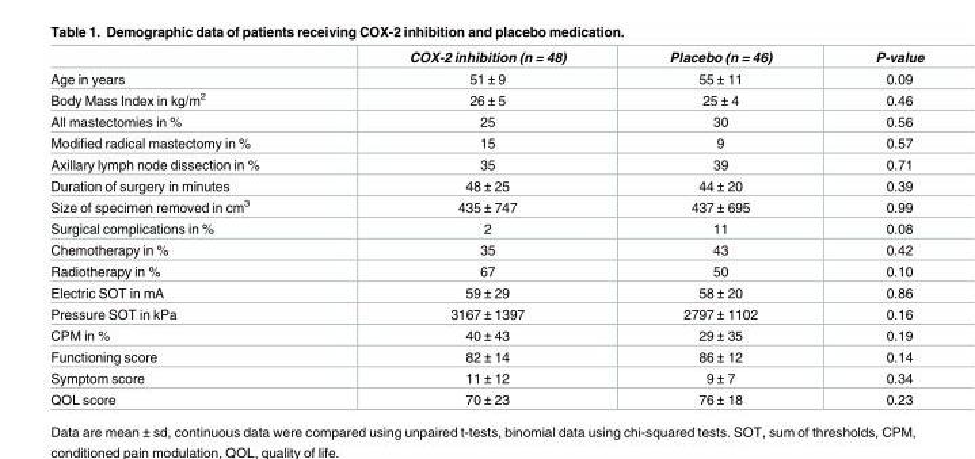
<table><thead><tr><td></td><td>COX-2 inhibition (n = 48)</td><td>Placebo (n = 46)</td><td>P-value</td></tr></thead><tbody><tr><td>Age in years</td><td>51 ± 9</td><td>55 ± 11</td><td>0.09</td></tr><tr><td>Body Mass Index in kg/m<sup>2</sup></td><td>26 ± 5</td><td>25 ± 4</td><td>0.46</td></tr><tr><td>All mastectomies in %</td><td>25</td><td>30</td><td>0.56</td></tr><tr><td>Modified radical mastectomy in %</td><td>15</td><td>9</td><td>0.57</td></tr><tr><td>Axillary lymph node dissection in %</td><td>35</td><td>39</td><td>0.71</td></tr><tr><td>Duration of surgery in minutes</td><td>48 ± 25</td><td>44 ± 20</td><td>0.39</td></tr><tr><td>Size of specimen removed in cm<sup>3</sup></td><td>435 ± 747</td><td>437 ± 695</td><td>0.99</td></tr><tr><td>Surgical complications in %</td><td>2</td><td>11</td><td>0.08</td></tr><tr><td>Chemotherapy in %</td><td>35</td><td>43</td><td>0.42</td></tr><tr><td>Radiotherapy in %</td><td>67</td><td>50</td><td>0.10</td></tr><tr><td>Electric SOT in mA</td><td>59 ± 29</td><td>58 ± 20</td><td>0.86</td></tr><tr><td>Pressure SOT in kPa</td><td>3167 ± 1397</td><td>2797 ± 1102</td><td>0.16</td></tr><tr><td>CPM in %</td><td>40 ± 43</td><td>29 ± 35</td><td>0.19</td></tr><tr><td>Functioning score</td><td>82 ± 14</td><td>86 ± 12</td><td>0.14</td></tr><tr><td>Symptom score</td><td>11 ± 12</td><td>9 ± 7</td><td>0.34</td></tr><tr><td>QOL score</td><td>70 ± 23</td><td>76 ± 18</td><td>0.23</td></tr></tbody></table>